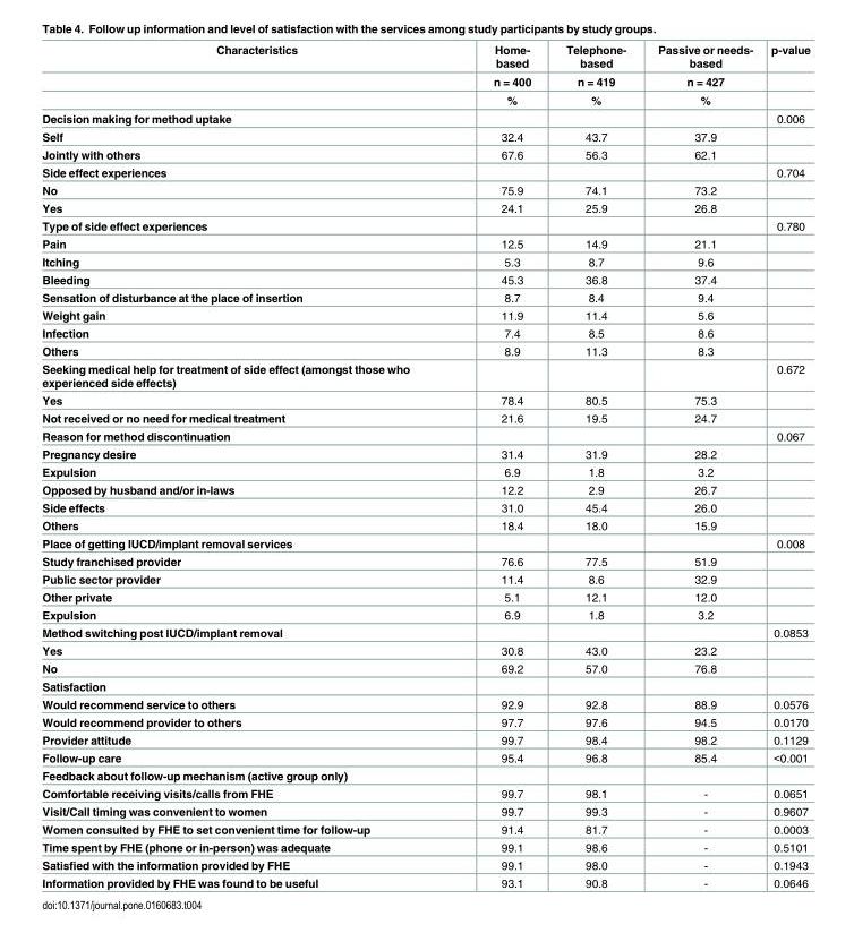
<table><thead><tr><td rowspan="3">Characteristics</td><td rowspan="3">Home- based n = 400 %</td><td rowspan="3">Telephone- based n = 419 %</td><td rowspan="3">Passive or needs- based n = 427 %</td><td rowspan="3">p-value</td></tr><tr></tr><tr></tr></thead><tbody><tr><td>Decision making for method uptake</td><td></td><td></td><td></td><td>0.006</td></tr><tr><td>Self</td><td>32.4</td><td>43.7</td><td>37.9</td><td></td></tr><tr><td>Jointly with others</td><td>67.6</td><td>56.3</td><td>62.1</td><td></td></tr><tr><td>Side effect experiences</td><td></td><td></td><td></td><td>0.704</td></tr><tr><td>No</td><td>75.9</td><td>74.1</td><td>73.2</td><td></td></tr><tr><td>Yes</td><td>24.1</td><td>25.9</td><td>26.8</td><td></td></tr><tr><td>Type of side effect experiences</td><td></td><td></td><td></td><td>0.780</td></tr><tr><td>Pain</td><td>12.5</td><td>14.9</td><td>21.1</td><td></td></tr><tr><td>Itching</td><td>5.3</td><td>8.7</td><td>9.6</td><td></td></tr><tr><td>Bleeding</td><td>45.3</td><td>36.8</td><td>37.4</td><td></td></tr><tr><td>Sensation of disturbance at the place of insertion</td><td>8.7</td><td>8.4</td><td>9.4</td><td></td></tr><tr><td>Weight gain</td><td>11.9</td><td>11.4</td><td>5.6</td><td></td></tr><tr><td>Infection</td><td>7.4</td><td>8.5</td><td>8.6</td><td></td></tr><tr><td>Others</td><td>8.9</td><td>11.3</td><td>8.3</td><td></td></tr><tr><td>Seeking medical help for treatment of side effect (amongst those who experienced side effects)</td><td></td><td></td><td></td><td>0.672</td></tr><tr><td>Yes</td><td>78.4</td><td>80.5</td><td>75.3</td><td></td></tr><tr><td>Not received or no need for medical treatment</td><td>21.6</td><td>19.5</td><td>24.7</td><td></td></tr><tr><td>Reason for method discontinuation</td><td></td><td></td><td></td><td>0.067</td></tr><tr><td>Pregnancy desire</td><td>31.4</td><td>31.9</td><td>28.2</td><td></td></tr><tr><td>Expulsion</td><td>6.9</td><td>1.8</td><td>3.2</td><td></td></tr><tr><td>Opposed by husband and/or in-laws</td><td>12.2</td><td>2.9</td><td>26.7</td><td></td></tr><tr><td>Side effects</td><td>31.0</td><td>45.4</td><td>26.0</td><td></td></tr><tr><td>Others</td><td>18.4</td><td>18.0</td><td>15.9</td><td></td></tr><tr><td>Place of getting IUCD/implant removal services</td><td></td><td></td><td></td><td>0.008</td></tr><tr><td>Study franchised provider</td><td>76.6</td><td>77.5</td><td>51.9</td><td></td></tr><tr><td>Public sector provider</td><td>11.4</td><td>8.6</td><td>32.9</td><td></td></tr><tr><td>Other private</td><td>5.1</td><td>12.1</td><td>12.0</td><td></td></tr><tr><td>Expulsion</td><td>6.9</td><td>1.8</td><td>3.2</td><td></td></tr><tr><td>Method switching post IUCD/implant removal</td><td></td><td></td><td></td><td>0.0853</td></tr><tr><td>Yes</td><td>30.8</td><td>43.0</td><td>23.2</td><td></td></tr><tr><td>No</td><td>69.2</td><td>57.0</td><td>76.8</td><td></td></tr><tr><td colspan="5">Satisfaction</td></tr><tr><td>Would recommend service to others</td><td>92.9</td><td>92.8</td><td>88.9</td><td>0.0576</td></tr><tr><td>Would recommend provider to others</td><td>97.7</td><td>97.6</td><td>94.5</td><td>0.0170</td></tr><tr><td>Provider attitude</td><td>99.7</td><td>98.4</td><td>98.2</td><td>0.1129</td></tr><tr><td>Follow-up care</td><td>95.4</td><td>96.8</td><td>85.4</td><td>&lt;0.001</td></tr><tr><td colspan="5">Feedback about follow-up mechanism (active group only)</td></tr><tr><td>Comfortable receiving visits/calls from FHE</td><td>99.7</td><td>98.1</td><td>-</td><td>0.0651</td></tr><tr><td>Visit/Call timing was convenient to women</td><td>99.7</td><td>99.3</td><td>-</td><td>0.9607</td></tr><tr><td>Women consulted by FHE to set convenient time for follow-up</td><td>91.4</td><td>81.7</td><td>-</td><td>0.0003</td></tr><tr><td>Time spent by FHE (phone or in-person) was adequate</td><td>99.1</td><td>98.6</td><td>-</td><td>0.5101</td></tr><tr><td>Satisfied with the information provided by FHE</td><td>99.1</td><td>98.0</td><td>-</td><td>0.1943</td></tr><tr><td>Information provided by FHE was found to be useful</td><td>93.1</td><td>90.8</td><td>-</td><td>0.0646</td></tr></tbody></table>